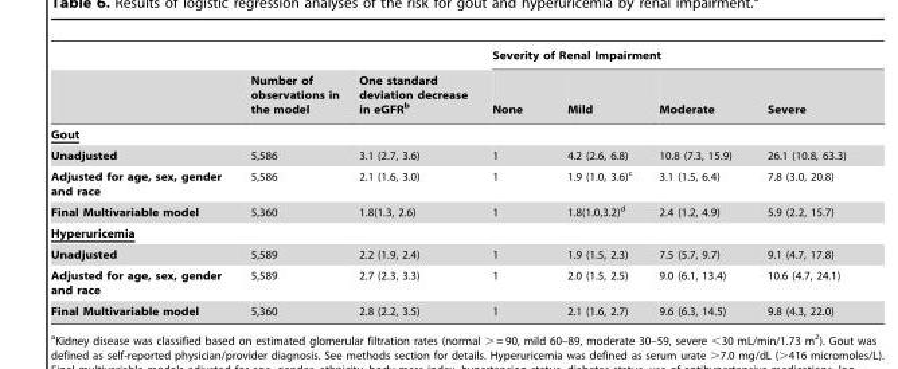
<table><thead><tr><td rowspan="2"></td><td rowspan="2">Number of observations in the model</td><td rowspan="2">One standard deviation decrease in eGFR<sup>b</sup></td><td colspan="4">Severity of Renal Impairment</td></tr><tr><td>None</td><td>Mild</td><td>Moderate</td><td>Severe</td></tr></thead><tbody><tr><td colspan="7">Gout</td></tr><tr><td>Unadjusted</td><td>5,586</td><td>3.1 (2.7, 3.6)</td><td>1</td><td>4.2 (2.6, 6.8)</td><td>10.8 (7.3, 15.9)</td><td>26.1 (10.8, 63.3)</td></tr><tr><td>Adjusted for age, sex, gender and race</td><td>5,586</td><td>2.1 (1.6, 3.0)</td><td>1</td><td>1.9 (1.0, 3.6)<sup>c</sup></td><td>3.1 (1.5, 6.4)</td><td>7.8 (3.0, 20.8)</td></tr><tr><td>Final Multivariable model</td><td>5,360</td><td>1.8(1.3, 2.6)</td><td>1</td><td>1.8(1.0,3.2)<sup>d</sup></td><td>2.4 (1.2, 4.9)</td><td>5.9 (2.2, 15.7)</td></tr><tr><td colspan="7">Hyperuricemia</td></tr><tr><td>Unadjusted</td><td>5,589</td><td>2.2 (1.9, 2.4)</td><td>1</td><td>1.9 (1.5, 2.3)</td><td>7.5 (5.7, 9.7)</td><td>9.1 (4.7, 17.8)</td></tr><tr><td>Adjusted for age, sex, gender and race</td><td>5,589</td><td>2.7 (2.3, 3.3)</td><td>1</td><td>2.0 (1.5, 2.5)</td><td>9.0 (6.1, 13.4)</td><td>10.6 (4.7, 24.1)</td></tr><tr><td>Final Multivariable model</td><td>5,360</td><td>2.8 (2.2, 3.5)</td><td>1</td><td>2.1 (1.6, 2.7)</td><td>9.6 (6.3, 14.5)</td><td>9.8 (4.3, 22.0)</td></tr></tbody></table>